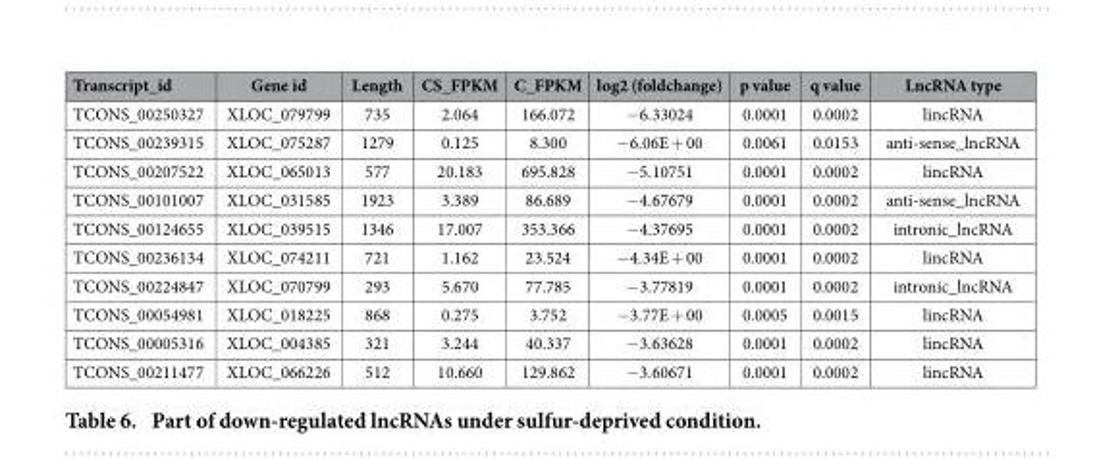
<table><thead><tr><td>Transcript_id</td><td>Gene id</td><td>Length</td><td>CS_FPKM</td><td>C_FPKM</td><td>log2 (foldchange)</td><td>p value</td><td>q value</td><td>LncRNA type</td></tr></thead><tbody><tr><td>TCONS_00250327</td><td>XLOC_079799</td><td>735</td><td>2.064</td><td>166.072</td><td>− 6.33024</td><td>0.0001</td><td>0.0002</td><td>lincRNA</td></tr><tr><td>TCONS_00239315</td><td>XLOC_075287</td><td>1279</td><td>0.125</td><td>8.300</td><td>− 6.06E + 00</td><td>0.0061</td><td>0.0153</td><td>anti-sense_lncRNA</td></tr><tr><td>TCONS_00207522</td><td>XLOC_065013</td><td>577</td><td>20.183</td><td>695.828</td><td>− 5.10751</td><td>0.0001</td><td>0.0002</td><td>lincRNA</td></tr><tr><td>TCONS_00101007</td><td>XLOC_031585</td><td>1923</td><td>3.389</td><td>86.689</td><td>− 4.67679</td><td>0.0001</td><td>0.0002</td><td>anti-sense_lncRNA</td></tr><tr><td>TCONS_00124655</td><td>XLOC_039515</td><td>1346</td><td>17.007</td><td>353.366</td><td>− 4.37695</td><td>0.0001</td><td>0.0002</td><td>intronic_lncRNA</td></tr><tr><td>TCONS_00236134</td><td>XLOC_074211</td><td>721</td><td>1.162</td><td>23.524</td><td>− 4.34E + 00</td><td>0.0001</td><td>0.0002</td><td>lincRNA</td></tr><tr><td>TCONS_00224847</td><td>XLOC_070799</td><td>293</td><td>5.670</td><td>77.785</td><td>− 3.77819</td><td>0.0001</td><td>0.0002</td><td>intronic_lncRNA</td></tr><tr><td>TCONS_00054981</td><td>XLOC_018225</td><td>868</td><td>0.275</td><td>3.752</td><td>− 3.77E + 00</td><td>0.0005</td><td>0.0015</td><td>lincRNA</td></tr><tr><td>TCONS_00005316</td><td>XLOC_004385</td><td>321</td><td>3.244</td><td>40.337</td><td>− 3.63628</td><td>0.0001</td><td>0.0002</td><td>lincRNA</td></tr><tr><td>TCONS_00211477</td><td>XLOC_066226</td><td>512</td><td>10.660</td><td>129.862</td><td>− 3.60671</td><td>0.0001</td><td>0.0002</td><td>lincRNA</td></tr></tbody></table>